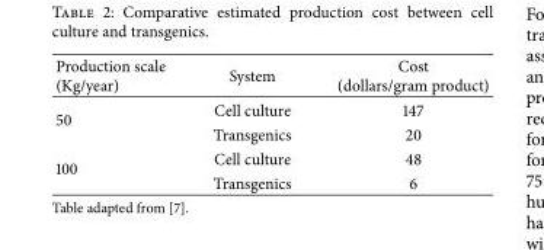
<table><thead><tr><td>Production scale (Kg/year)</td><td>System</td><td>Cost (dollars/gram product)</td></tr></thead><tbody><tr><td rowspan="2">50</td><td>Cell culture</td><td>147</td></tr><tr><td>Transgenics</td><td>20</td></tr><tr><td rowspan="2">100</td><td>Cell culture</td><td>48</td></tr><tr><td>Transgenics</td><td>6</td></tr></tbody></table>